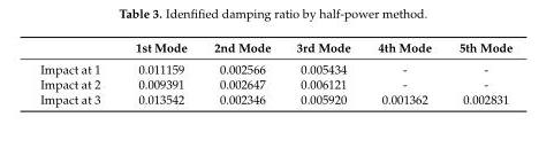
<table><thead><tr><td></td><td>1st Mode</td><td>2nd Mode</td><td>3rd Mode</td><td>4th Mode</td><td>5th Mode</td></tr></thead><tbody><tr><td>Impact at 1</td><td>0.011159</td><td>0.002566</td><td>0.005434</td><td>-</td><td>-</td></tr><tr><td>Impact at 2</td><td>0.009391</td><td>0.002647</td><td>0.006121</td><td>-</td><td>-</td></tr><tr><td>Impact at 3</td><td>0.013542</td><td>0.002346</td><td>0.005920</td><td>0.001362</td><td>0.002831</td></tr></tbody></table>